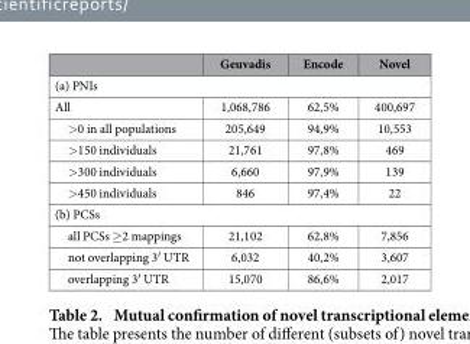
<table><thead><tr><td></td><td>Geuvadis</td><td>Encode</td><td>Novel</td></tr></thead><tbody><tr><td colspan="4">(a) PNIs</td></tr><tr><td>All</td><td>1,068,786</td><td>62,5%</td><td>400,697</td></tr><tr><td>&gt; 0 in all populations</td><td>205,649</td><td>94,9%</td><td>10,553</td></tr><tr><td>&gt; 150 individuals</td><td>21,761</td><td>97,8%</td><td>469</td></tr><tr><td>&gt; 300 individuals</td><td>6,660</td><td>97,9%</td><td>139</td></tr><tr><td>&gt; 450 individuals</td><td>846</td><td>97,4%</td><td>22</td></tr><tr><td colspan="4">(b) PCSs</td></tr><tr><td>all PCSs ≥ 2 mappings</td><td>21,102</td><td>62,8%</td><td>7,856</td></tr><tr><td>not overlapping 3′ UTR</td><td>6,032</td><td>40,2%</td><td>3,607</td></tr><tr><td>overlapping 3′ UTR</td><td>15,070</td><td>86,6%</td><td>2,017</td></tr></tbody></table>